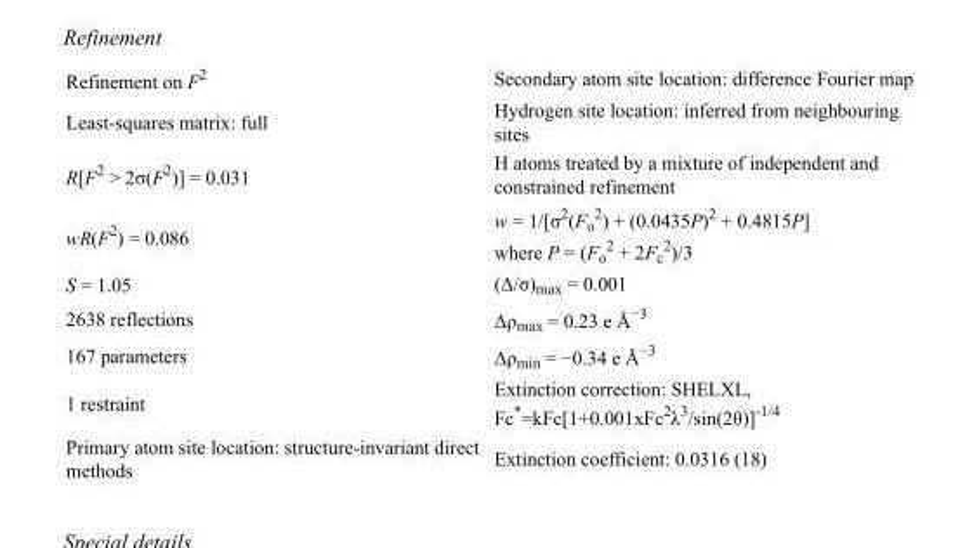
<table><tbody><tr><td>Refinement on F<sup>2</sup></td><td>Secondary atom site location: difference Fourier map</td></tr><tr><td>Least-squares matrix: full</td><td>Hydrogen site location: inferred from neighbouring sites</td></tr><tr><td>R[F<sup>2</sup> &gt; 2σ(F<sup>2</sup>)] = 0.031</td><td>H atoms treated by a mixture of independent and constrained refinement</td></tr><tr><td>wR(F<sup>2</sup>) = 0.086</td><td>w = 1/[σ<sup>2</sup>(F<sub>o</sub> <sup>2</sup>) + (0.0435P)<sup>2</sup> + 0.4815P] where P = (F<sub>o</sub> <sup>2</sup> + 2F<sub>c</sub> <sup>2</sup>)/3</td></tr><tr><td>S = 1.05</td><td>(Δ/σ)<sub>max</sub> = 0.001</td></tr><tr><td>2638 reflections</td><td>Δρ<sub>max</sub> = 0.23 e Å<sup>−3</sup></td></tr><tr><td>167 parameters</td><td>Δρ<sub>min</sub> = −0.34 e Å<sup>−3</sup></td></tr><tr><td>1 restraint</td><td>Extinction correction: SHELXL, Fc*=kFc[1+0.001xFc<sup>2</sup>λ<sup>3</sup>/sin(2θ)]<sup>-1/4</sup></td></tr><tr><td>Primary atom site location: structure-invariant direct methods</td><td>Extinction coefficient: 0.0316 (18)</td></tr></tbody></table>